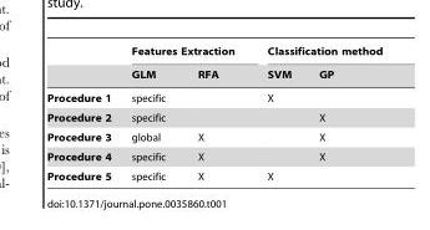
<table><thead><tr><td rowspan="2"></td><td colspan="2">Features Extraction</td><td colspan="2">Classification method</td></tr><tr><td>GLM</td><td>RFA</td><td>SVM</td><td>GP</td></tr></thead><tbody><tr><td>Procedure 1</td><td>specific</td><td></td><td>X</td><td></td></tr><tr><td>Procedure 2</td><td>specific</td><td></td><td></td><td>X</td></tr><tr><td>Procedure 3</td><td>global</td><td>X</td><td></td><td>X</td></tr><tr><td>Procedure 4</td><td>specific</td><td>X</td><td></td><td>X</td></tr><tr><td>Procedure 5</td><td>specific</td><td>X</td><td>X</td><td></td></tr></tbody></table>